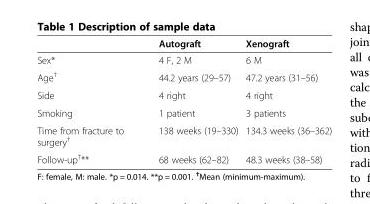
<table><thead><tr><td></td><td>Autograft</td><td>Xenograft</td></tr></thead><tbody><tr><td>Sex*</td><td>4 F, 2 M</td><td>6 M</td></tr><tr><td>Age<sup>†</sup></td><td>44.2 years (29–57)</td><td>47.2 years (31–56)</td></tr><tr><td>Side</td><td>4 right</td><td>4 right</td></tr><tr><td>Smoking</td><td>1 patient</td><td>3 patients</td></tr><tr><td>Time from fracture to surgery<sup>†</sup></td><td>138 weeks (19–330)</td><td>134.3 weeks (36–362)</td></tr><tr><td>Follow-up<sup>†</sup>**</td><td>68 weeks (62–82)</td><td>48.3 weeks (38–58)</td></tr></tbody></table>